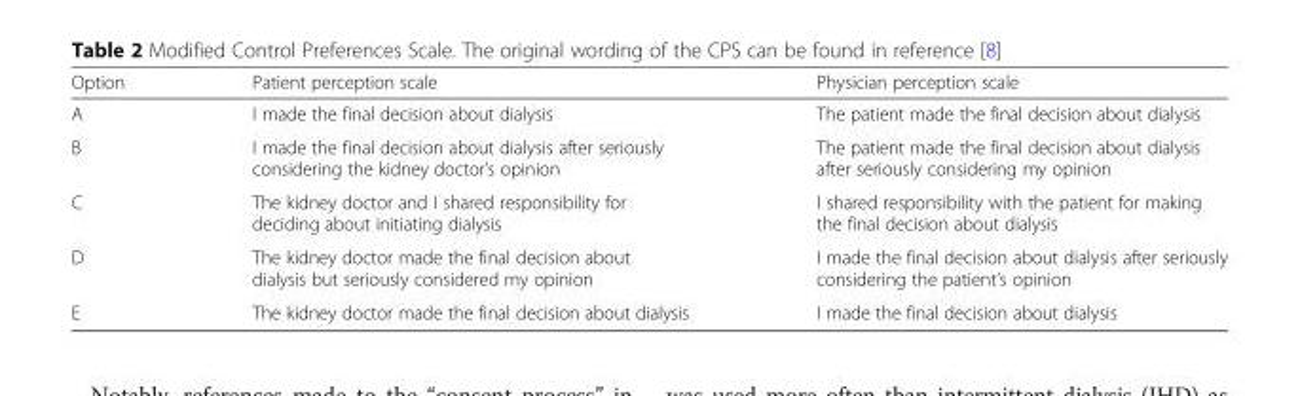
<table><thead><tr><td>Option</td><td>Patient perception scale</td><td>Physician perception scale</td></tr></thead><tbody><tr><td>A</td><td>I made the final decision about dialysis</td><td>The patient made the final decision about dialysis</td></tr><tr><td>B</td><td>I made the final decision about dialysis after seriously considering the kidney doctor’s opinion</td><td>The patient made the final decision about dialysis after seriously considering my opinion</td></tr><tr><td>C</td><td>The kidney doctor and I shared responsibility for deciding about initiating dialysis</td><td>I shared responsibility with the patient for making the final decision about dialysis</td></tr><tr><td>D</td><td>The kidney doctor made the final decision about dialysis but seriously considered my opinion</td><td>I made the final decision about dialysis after seriously considering the patient’s opinion</td></tr><tr><td>E</td><td>The kidney doctor made the final decision about dialysis</td><td>I made the final decision about dialysis</td></tr></tbody></table>